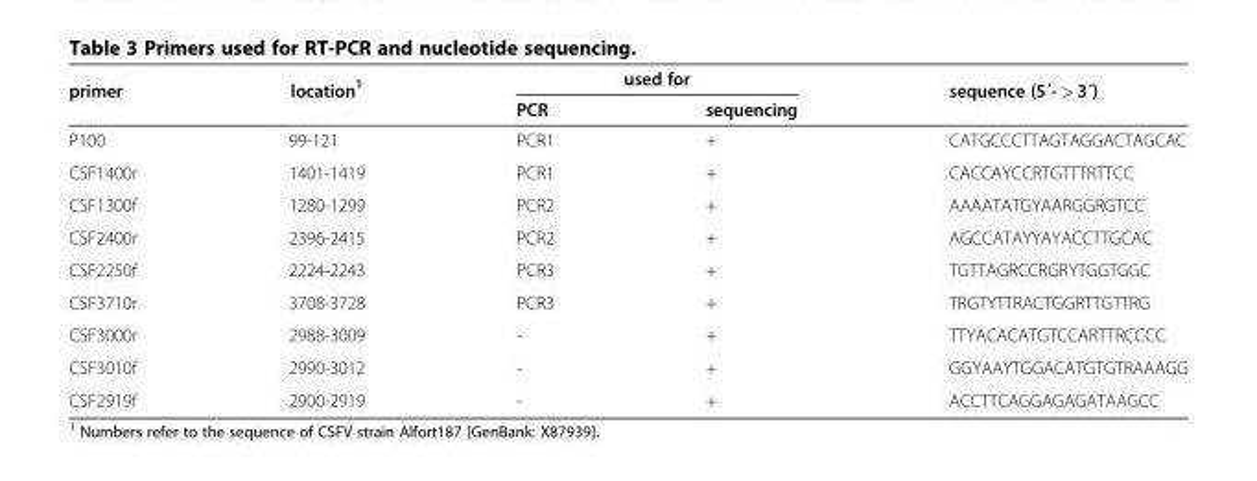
<table><thead><tr><td rowspan="2">primer</td><td rowspan="2">location<sup>1</sup></td><td colspan="2">used for</td><td rowspan="2">sequence (5´- &gt; 3´)</td></tr><tr><td>PCR</td><td>sequencing</td></tr></thead><tbody><tr><td>P100</td><td>99-121</td><td>PCR1</td><td>+</td><td>CATGCCCTTAGTAGGACTAGCAC</td></tr><tr><td>CSF1400r</td><td>1401-1419</td><td>PCR1</td><td>+</td><td>CACCAYCCRTGTTTRTTCC</td></tr><tr><td>CSF1300f</td><td>1280-1299</td><td>PCR2</td><td>+</td><td>AAAATATGYAARGGRGTCC</td></tr><tr><td>CSF2400r</td><td>2396-2415</td><td>PCR2</td><td>+</td><td>AGCCATAYYAYACCTTGCAC</td></tr><tr><td>CSF2250f</td><td>2224-2243</td><td>PCR3</td><td>+</td><td>TGTTAGRCCRGRYTGGTGGC</td></tr><tr><td>CSF3710r</td><td>3708-3728</td><td>PCR3</td><td>+</td><td>TRGTYTTRACTGGRTTGTTRG</td></tr><tr><td>CSF3000r</td><td>2988-3009</td><td>-</td><td>+</td><td>TTYACACATGTCCARTTRCCCC</td></tr><tr><td>CSF3010f</td><td>2990-3012</td><td>-</td><td>+</td><td>GGYAAYTGGACATGTGTRAAAGG</td></tr><tr><td>CSF2919f</td><td>2900-2919</td><td>-</td><td>+</td><td>ACCTTCAGGAGAGATAAGCC</td></tr></tbody></table>